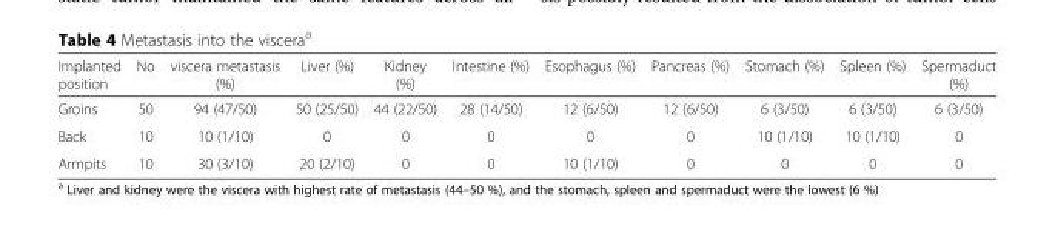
<table><thead><tr><td>Implanted position</td><td>No</td><td>viscera metastasis (%)</td><td>Liver (%)</td><td>Kidney (%)</td><td>Intestine (%)</td><td>Esophagus (%)</td><td>Pancreas (%)</td><td>Stomach (%)</td><td>Spleen (%)</td><td>Spermaduct (%)</td></tr></thead><tbody><tr><td>Groins</td><td>50</td><td>94 (47/50)</td><td>50 (25/50)</td><td>44 (22/50)</td><td>28 (14/50)</td><td>12 (6/50)</td><td>12 (6/50)</td><td>6 (3/50)</td><td>6 (3/50)</td><td>6 (3/50)</td></tr><tr><td>Back</td><td>10</td><td>10 (1/10)</td><td>0</td><td>0</td><td>0</td><td>0</td><td>0</td><td>10 (1/10)</td><td>10 (1/10)</td><td>0</td></tr><tr><td>Armpits</td><td>10</td><td>30 (3/10)</td><td>20 (2/10)</td><td>0</td><td>0</td><td>10 (1/10)</td><td>0</td><td>0</td><td>0</td><td>0</td></tr></tbody></table>